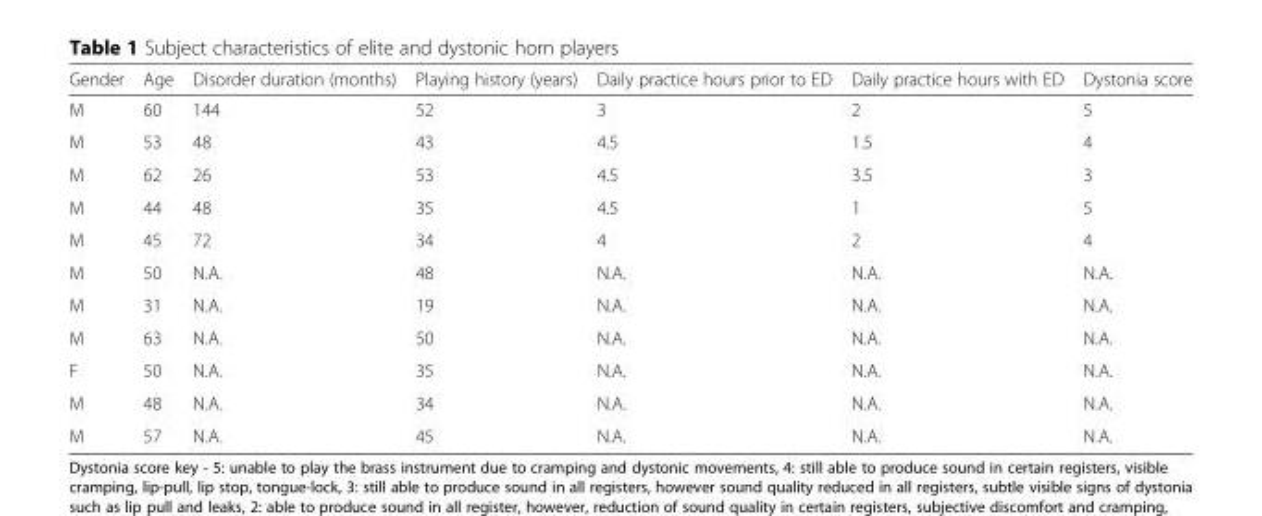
<table><thead><tr><td>Gender</td><td>Age</td><td>Disorder duration (months)</td><td>Playing history (years)</td><td>Daily practice hours prior to ED</td><td>Daily practice hours with ED</td><td>Dystonia score</td></tr></thead><tbody><tr><td>M</td><td>60</td><td>144</td><td>52</td><td>3</td><td>2</td><td>5</td></tr><tr><td>M</td><td>53</td><td>48</td><td>43</td><td>4.5</td><td>1.5</td><td>4</td></tr><tr><td>M</td><td>62</td><td>26</td><td>53</td><td>4.5</td><td>3.5</td><td>3</td></tr><tr><td>M</td><td>44</td><td>48</td><td>35</td><td>4.5</td><td>1</td><td>5</td></tr><tr><td>M</td><td>45</td><td>72</td><td>34</td><td>4</td><td>2</td><td>4</td></tr><tr><td>M</td><td>50</td><td>N.A.</td><td>48</td><td>N.A.</td><td>N.A.</td><td>N.A.</td></tr><tr><td>M</td><td>31</td><td>N.A.</td><td>19</td><td>N.A.</td><td>N.A.</td><td>N.A.</td></tr><tr><td>M</td><td>63</td><td>N.A.</td><td>50</td><td>N.A.</td><td>N.A.</td><td>N.A.</td></tr><tr><td>F</td><td>50</td><td>N.A.</td><td>35</td><td>N.A.</td><td>N.A.</td><td>N.A.</td></tr><tr><td>M</td><td>48</td><td>N.A.</td><td>34</td><td>N.A.</td><td>N.A.</td><td>N.A.</td></tr><tr><td>M</td><td>57</td><td>N.A.</td><td>45</td><td>N.A.</td><td>N.A.</td><td>N.A.</td></tr></tbody></table>